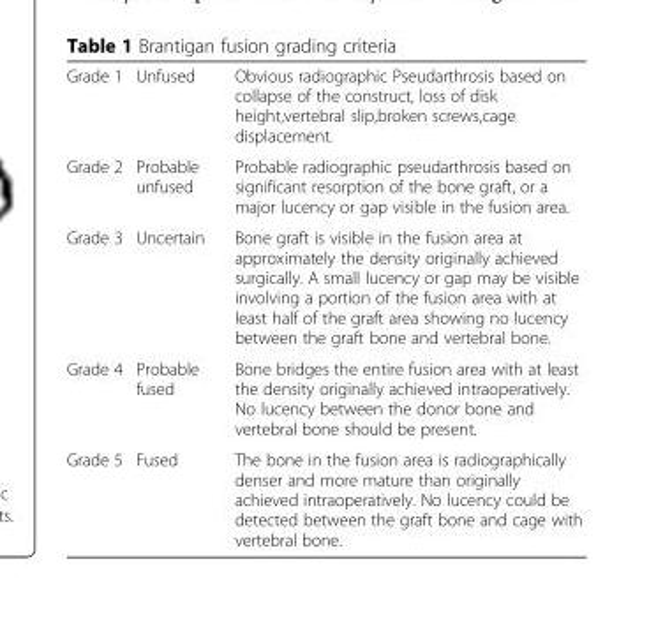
<table><tbody><tr><td>Grade 1</td><td>Unfused</td><td>Obvious radiographic Pseudarthrosis based on collapse of the construct, loss of disk height,vertebral slip,broken screws,cage displacement.</td></tr><tr><td>Grade 2</td><td>Probable unfused</td><td>Probable radiographic pseudarthrosis based on significant resorption of the bone graft, or a major lucency or gap visible in the fusion area.</td></tr><tr><td>Grade 3</td><td>Uncertain</td><td>Bone graft is visible in the fusion area at approximately the density originally achieved surgically. A small lucency or gap may be visible involving a portion of the fusion area with at least half of the graft area showing no lucency between the graft bone and vertebral bone.</td></tr><tr><td>Grade 4</td><td>Probable fused</td><td>Bone bridges the entire fusion area with at least the density originally achieved intraoperatively. No lucency between the donor bone and vertebral bone should be present.</td></tr><tr><td>Grade 5</td><td>Fused</td><td>The bone in the fusion area is radiographically denser and more mature than originally achieved intraoperatively. No lucency could be detected between the graft bone and cage with vertebral bone.</td></tr></tbody></table>